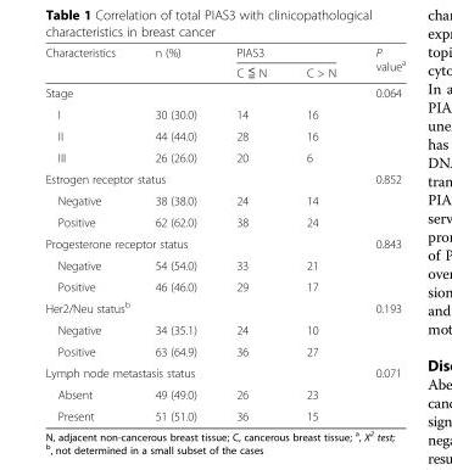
<table><thead><tr><td rowspan="2">Characteristics</td><td rowspan="2">n (%)</td><td colspan="2">PIAS3</td><td rowspan="2">P value<sup>a</sup></td></tr><tr><td>C ≦ N</td><td>C &gt; N</td></tr></thead><tbody><tr><td colspan="4">Stage</td><td>0.064</td></tr><tr><td>I</td><td>30 (30.0)</td><td>14</td><td>16</td><td></td></tr><tr><td>II</td><td>44 (44.0)</td><td>28</td><td>16</td><td></td></tr><tr><td>III</td><td>26 (26.0)</td><td>20</td><td>6</td><td></td></tr><tr><td colspan="4">Estrogen receptor status</td><td>0.852</td></tr><tr><td>Negative</td><td>38 (38.0)</td><td>24</td><td>14</td><td></td></tr><tr><td>Positive</td><td>62 (62.0)</td><td>38</td><td>24</td><td></td></tr><tr><td colspan="4">Progesterone receptor status</td><td>0.843</td></tr><tr><td>Negative</td><td>54 (54.0)</td><td>33</td><td>21</td><td></td></tr><tr><td>Positive</td><td>46 (46.0)</td><td>29</td><td>17</td><td></td></tr><tr><td colspan="4">Her2/Neu status<sup>b</sup></td><td>0.193</td></tr><tr><td>Negative</td><td>34 (35.1)</td><td>24</td><td>10</td><td></td></tr><tr><td>Positive</td><td>63 (64.9)</td><td>36</td><td>27</td><td></td></tr><tr><td colspan="4">Lymph node metastasis status</td><td>0.071</td></tr><tr><td>Absent</td><td>49 (49.0)</td><td>26</td><td>23</td><td></td></tr><tr><td>Present</td><td>51 (51.0)</td><td>36</td><td>15</td><td></td></tr></tbody></table>